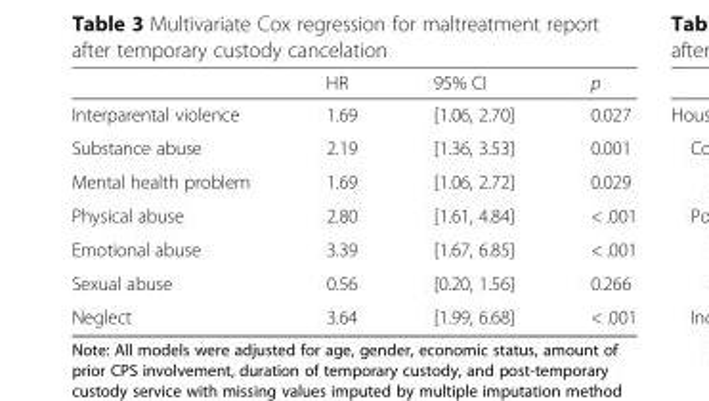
<table><thead><tr><td></td><td>HR</td><td>95% CI</td><td>p</td></tr></thead><tbody><tr><td>Interparental violence</td><td>1.69</td><td>[1.06, 2.70]</td><td>0.027</td></tr><tr><td>Substance abuse</td><td>2.19</td><td>[1.36, 3.53]</td><td>0.001</td></tr><tr><td>Mental health problem</td><td>1.69</td><td>[1.06, 2.72]</td><td>0.029</td></tr><tr><td>Physical abuse</td><td>2.80</td><td>[1.61, 4.84]</td><td>&lt; .001</td></tr><tr><td>Emotional abuse</td><td>3.39</td><td>[1.67, 6.85]</td><td>&lt; .001</td></tr><tr><td>Sexual abuse</td><td>0.56</td><td>[0.20, 1.56]</td><td>0.266</td></tr><tr><td>Neglect</td><td>3.64</td><td>[1.99, 6.68]</td><td>&lt; .001</td></tr></tbody></table>